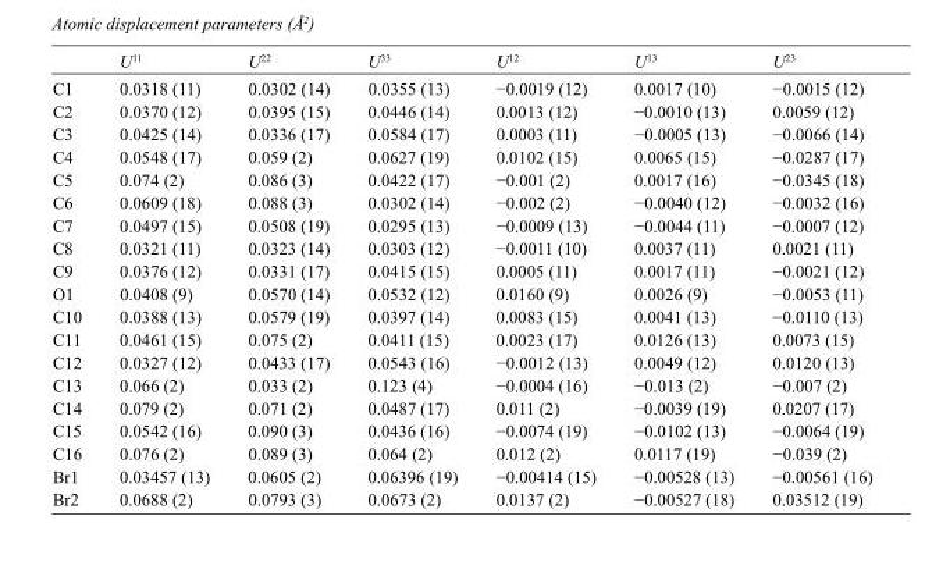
<table><thead><tr><td></td><td>U<sup>11</sup></td><td>U<sup>22</sup></td><td>U<sup>33</sup></td><td>U<sup>12</sup></td><td>U<sup>13</sup></td><td>U<sup>23</sup></td></tr></thead><tbody><tr><td>C1</td><td>0.0318 (11)</td><td>0.0302 (14)</td><td>0.0355 (13)</td><td>−0.0019 (12)</td><td>0.0017 (10)</td><td>−0.0015 (12)</td></tr><tr><td>C2</td><td>0.0370 (12)</td><td>0.0395 (15)</td><td>0.0446 (14)</td><td>0.0013 (12)</td><td>−0.0010 (13)</td><td>0.0059 (12)</td></tr><tr><td>C3</td><td>0.0425 (14)</td><td>0.0336 (17)</td><td>0.0584 (17)</td><td>0.0003 (11)</td><td>−0.0005 (13)</td><td>−0.0066 (14)</td></tr><tr><td>C4</td><td>0.0548 (17)</td><td>0.059 (2)</td><td>0.0627 (19)</td><td>0.0102 (15)</td><td>0.0065 (15)</td><td>−0.0287 (17)</td></tr><tr><td>C5</td><td>0.074 (2)</td><td>0.086 (3)</td><td>0.0422 (17)</td><td>−0.001 (2)</td><td>0.0017 (16)</td><td>−0.0345 (18)</td></tr><tr><td>C6</td><td>0.0609 (18)</td><td>0.088 (3)</td><td>0.0302 (14)</td><td>−0.002 (2)</td><td>−0.0040 (12)</td><td>−0.0032 (16)</td></tr><tr><td>C7</td><td>0.0497 (15)</td><td>0.0508 (19)</td><td>0.0295 (13)</td><td>−0.0009 (13)</td><td>−0.0044 (11)</td><td>−0.0007 (12)</td></tr><tr><td>C8</td><td>0.0321 (11)</td><td>0.0323 (14)</td><td>0.0303 (12)</td><td>−0.0011 (10)</td><td>0.0037 (11)</td><td>0.0021 (11)</td></tr><tr><td>C9</td><td>0.0376 (12)</td><td>0.0331 (17)</td><td>0.0415 (15)</td><td>0.0005 (11)</td><td>0.0017 (11)</td><td>−0.0021 (12)</td></tr><tr><td>O1</td><td>0.0408 (9)</td><td>0.0570 (14)</td><td>0.0532 (12)</td><td>0.0160 (9)</td><td>0.0026 (9)</td><td>−0.0053 (11)</td></tr><tr><td>C10</td><td>0.0388 (13)</td><td>0.0579 (19)</td><td>0.0397 (14)</td><td>0.0083 (15)</td><td>0.0041 (13)</td><td>−0.0110 (13)</td></tr><tr><td>C11</td><td>0.0461 (15)</td><td>0.075 (2)</td><td>0.0411 (15)</td><td>0.0023 (17)</td><td>0.0126 (13)</td><td>0.0073 (15)</td></tr><tr><td>C12</td><td>0.0327 (12)</td><td>0.0433 (17)</td><td>0.0543 (16)</td><td>−0.0012 (13)</td><td>0.0049 (12)</td><td>0.0120 (13)</td></tr><tr><td>C13</td><td>0.066 (2)</td><td>0.033 (2)</td><td>0.123 (4)</td><td>−0.0004 (16)</td><td>−0.013 (2)</td><td>−0.007 (2)</td></tr><tr><td>C14</td><td>0.079 (2)</td><td>0.071 (2)</td><td>0.0487 (17)</td><td>0.011 (2)</td><td>−0.0039 (19)</td><td>0.0207 (17)</td></tr><tr><td>C15</td><td>0.0542 (16)</td><td>0.090 (3)</td><td>0.0436 (16)</td><td>−0.0074 (19)</td><td>−0.0102 (13)</td><td>−0.0064 (19)</td></tr><tr><td>C16</td><td>0.076 (2)</td><td>0.089 (3)</td><td>0.064 (2)</td><td>0.012 (2)</td><td>0.0117 (19)</td><td>−0.039 (2)</td></tr><tr><td>Br1</td><td>0.03457 (13)</td><td>0.0605 (2)</td><td>0.06396 (19)</td><td>−0.00414 (15)</td><td>−0.00528 (13)</td><td>−0.00561 (16)</td></tr><tr><td>Br2</td><td>0.0688 (2)</td><td>0.0793 (3)</td><td>0.0673 (2)</td><td>0.0137 (2)</td><td>−0.00527 (18)</td><td>0.03512 (19)</td></tr></tbody></table>